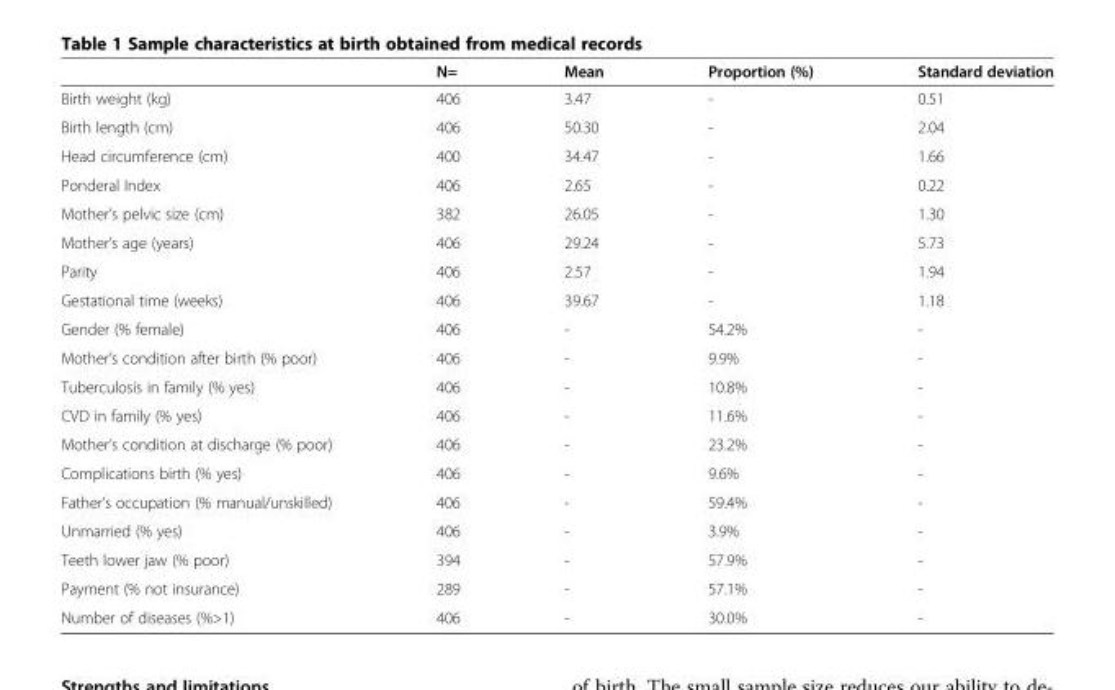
<table><thead><tr><td></td><td>N=</td><td>Mean</td><td>Proportion (%)</td><td>Standard deviation</td></tr></thead><tbody><tr><td>Birth weight (kg)</td><td>406</td><td>3.47</td><td>-</td><td>0.51</td></tr><tr><td>Birth length (cm)</td><td>406</td><td>50.30</td><td>-</td><td>2.04</td></tr><tr><td>Head circumference (cm)</td><td>400</td><td>34.47</td><td>-</td><td>1.66</td></tr><tr><td>Ponderal Index</td><td>406</td><td>2.65</td><td>-</td><td>0.22</td></tr><tr><td>Mother’s pelvic size (cm)</td><td>382</td><td>26.05</td><td>-</td><td>1.30</td></tr><tr><td>Mother’s age (years)</td><td>406</td><td>29.24</td><td>-</td><td>5.73</td></tr><tr><td>Parity</td><td>406</td><td>2.57</td><td>-</td><td>1.94</td></tr><tr><td>Gestational time (weeks)</td><td>406</td><td>39.67</td><td>-</td><td>1.18</td></tr><tr><td>Gender (% female)</td><td>406</td><td>-</td><td>54.2%</td><td>-</td></tr><tr><td>Mother’s condition after birth (% poor)</td><td>406</td><td>-</td><td>9.9%</td><td>-</td></tr><tr><td>Tuberculosis in family (% yes)</td><td>406</td><td>-</td><td>10.8%</td><td>-</td></tr><tr><td>CVD in family (% yes)</td><td>406</td><td>-</td><td>11.6%</td><td>-</td></tr><tr><td>Mother’s condition at discharge (% poor)</td><td>406</td><td>-</td><td>23.2%</td><td>-</td></tr><tr><td>Complications birth (% yes)</td><td>406</td><td>-</td><td>9.6%</td><td>-</td></tr><tr><td>Father’s occupation (% manual/unskilled)</td><td>406</td><td>-</td><td>59.4%</td><td>-</td></tr><tr><td>Unmarried (% yes)</td><td>406</td><td>-</td><td>3.9%</td><td>-</td></tr><tr><td>Teeth lower jaw (% poor)</td><td>394</td><td>-</td><td>57.9%</td><td>-</td></tr><tr><td>Payment (% not insurance)</td><td>289</td><td>-</td><td>57.1%</td><td>-</td></tr><tr><td>Number of diseases (%&gt;1)</td><td>406</td><td>-</td><td>30.0%</td><td>-</td></tr></tbody></table>